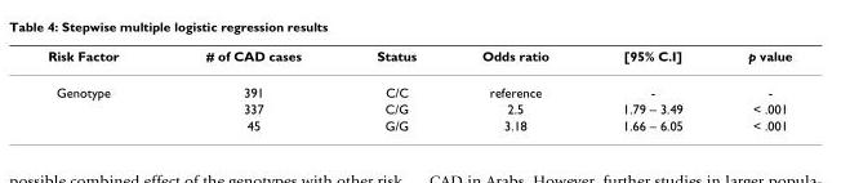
<table><thead><tr><td>Risk Factor</td><td># of CAD cases</td><td>Status</td><td>Odds ratio</td><td>[95% C.I]</td><td>p value</td></tr></thead><tbody><tr><td rowspan="3">Genotype</td><td>391</td><td>C/C</td><td>reference</td><td>-</td><td>-</td></tr><tr><td>337</td><td>C/G</td><td>2.5</td><td>1.79 – 3.49</td><td>&lt; .001</td></tr><tr><td>45</td><td>G/G</td><td>3.18</td><td>1.66 – 6.05</td><td>&lt; .001</td></tr></tbody></table>